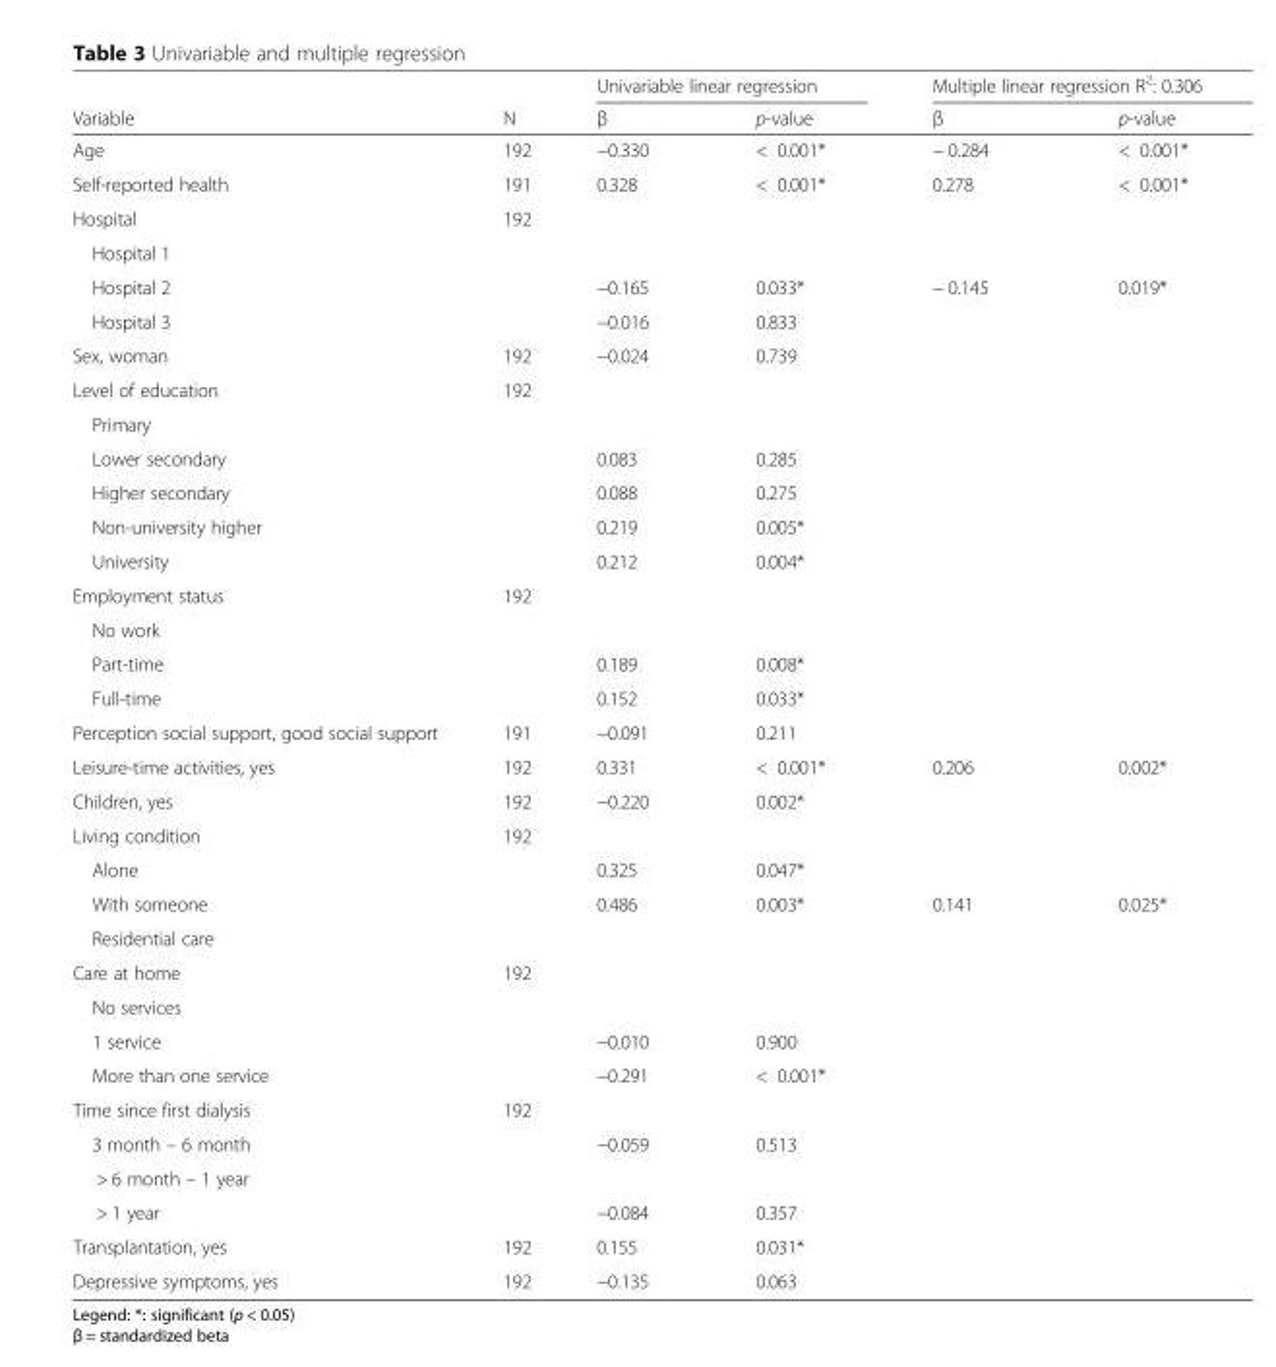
<table><thead><tr><td rowspan="2">Variable</td><td rowspan="2">N</td><td colspan="2">Univariable linear regression</td><td colspan="2">Multiple linear regression R<sup>2</sup>: 0.306</td></tr><tr><td>β</td><td>p-value</td><td>β</td><td>p-value</td></tr></thead><tbody><tr><td>Age</td><td>192</td><td>−0.330</td><td>&lt; 0.001*</td><td>− 0.284</td><td>&lt; 0.001*</td></tr><tr><td>Self-reported health</td><td>191</td><td>0.328</td><td>&lt; 0.001*</td><td>0.278</td><td>&lt; 0.001*</td></tr><tr><td>Hospital</td><td>192</td><td></td><td></td><td></td><td></td></tr><tr><td colspan="6">Hospital 1</td></tr><tr><td>Hospital 2</td><td></td><td>−0.165</td><td>0.033*</td><td>− 0.145</td><td>0.019*</td></tr><tr><td>Hospital 3</td><td></td><td>−0.016</td><td>0.833</td><td></td><td></td></tr><tr><td>Sex, woman</td><td>192</td><td>−0.024</td><td>0.739</td><td></td><td></td></tr><tr><td>Level of education</td><td>192</td><td></td><td></td><td></td><td></td></tr><tr><td colspan="6">Primary</td></tr><tr><td>Lower secondary</td><td></td><td>0.083</td><td>0.285</td><td></td><td></td></tr><tr><td>Higher secondary</td><td></td><td>0.088</td><td>0.275</td><td></td><td></td></tr><tr><td>Non-university higher</td><td></td><td>0.219</td><td>0.005*</td><td></td><td></td></tr><tr><td>University</td><td></td><td>0.212</td><td>0.004*</td><td></td><td></td></tr><tr><td>Employment status</td><td>192</td><td></td><td></td><td></td><td></td></tr><tr><td colspan="6">No work</td></tr><tr><td>Part-time</td><td></td><td>0.189</td><td>0.008*</td><td></td><td></td></tr><tr><td>Full-time</td><td></td><td>0.152</td><td>0.033*</td><td></td><td></td></tr><tr><td>Perception social support, good social support</td><td>191</td><td>−0.091</td><td>0.211</td><td></td><td></td></tr><tr><td>Leisure-time activities, yes</td><td>192</td><td>0.331</td><td>&lt; 0.001*</td><td>0.206</td><td>0.002*</td></tr><tr><td>Children, yes</td><td>192</td><td>−0.220</td><td>0.002*</td><td></td><td></td></tr><tr><td>Living condition</td><td>192</td><td></td><td></td><td></td><td></td></tr><tr><td>Alone</td><td></td><td>0.325</td><td>0.047*</td><td></td><td></td></tr><tr><td>With someone</td><td></td><td>0.486</td><td>0.003*</td><td>0.141</td><td>0.025*</td></tr><tr><td colspan="6">Residential care</td></tr><tr><td>Care at home</td><td>192</td><td></td><td></td><td></td><td></td></tr><tr><td colspan="6">No services</td></tr><tr><td>1 service</td><td></td><td>−0.010</td><td>0.900</td><td></td><td></td></tr><tr><td>More than one service</td><td></td><td>−0.291</td><td>&lt; 0.001*</td><td></td><td></td></tr><tr><td>Time since first dialysis</td><td>192</td><td></td><td></td><td></td><td></td></tr><tr><td>3 month – 6 month</td><td></td><td>−0.059</td><td>0.513</td><td></td><td></td></tr><tr><td colspan="6">&gt; 6 month – 1 year</td></tr><tr><td>&gt; 1 year</td><td></td><td>−0.084</td><td>0.357</td><td></td><td></td></tr><tr><td>Transplantation, yes</td><td>192</td><td>0.155</td><td>0.031*</td><td></td><td></td></tr><tr><td>Depressive symptoms, yes</td><td>192</td><td>−0.135</td><td>0.063</td><td></td><td></td></tr></tbody></table>